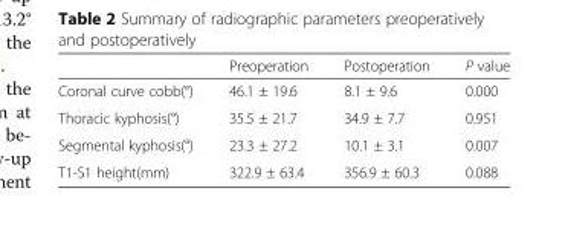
<table><thead><tr><td></td><td>Preoperation</td><td>Postoperation</td><td>P value</td></tr></thead><tbody><tr><td>Coronal curve cobb(°)</td><td>46.1 ± 19.6</td><td>8.1 ± 9.6</td><td>0.000</td></tr><tr><td>Thoracic kyphosis(°)</td><td>35.5 ± 21.7</td><td>34.9 ± 7.7</td><td>0.951</td></tr><tr><td>Segmental kyphosis(°)</td><td>23.3 ± 27.2</td><td>10.1 ± 3.1</td><td>0.007</td></tr><tr><td>T1-S1 height(mm)</td><td>322.9 ± 63.4</td><td>356.9 ± 60.3</td><td>0.088</td></tr></tbody></table>